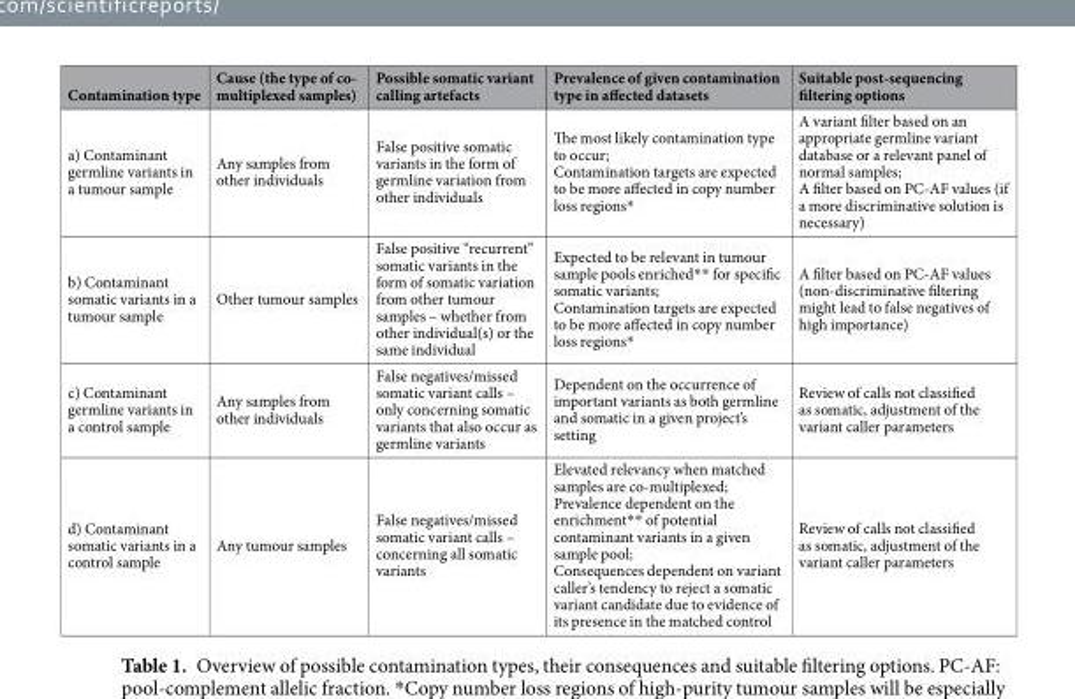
<table><thead><tr><td>Contamination type</td><td>Cause (the type of co- multiplexed samples)</td><td>Possible somatic variant calling artefacts</td><td>Prevalence of given contamination type in affected datasets</td><td>Suitable post-sequencing filtering options</td></tr></thead><tbody><tr><td>a) Contaminant germline variants in a tumour sample</td><td>Any samples from other individuals</td><td>False positive somatic variants in the form of germline variation from other individuals</td><td>The most likely contamination type to occur; Contamination targets are expected to be more affected in copy number loss regions*</td><td>A variant filter based on an appropriate germline variant database or a relevant panel of normal samples; A filter based on PC-AF values (if a more discriminative solution is necessary)</td></tr><tr><td>b) Contaminant somatic variants in a tumour sample</td><td>Other tumour samples</td><td>False positive “recurrent” somatic variants in the form of somatic variation from other tumour samples – whether from other individual(s) or the same individual</td><td>Expected to be relevant in tumour sample pools enriched** for specific somatic variants; Contamination targets are expected to be more affected in copy number loss regions*</td><td>A filter based on PC-AF values (non-discriminative filtering might lead to false negatives of high importance)</td></tr><tr><td>c) Contaminant germline variants in a control sample</td><td>Any samples from other individuals</td><td>False negatives/missed somatic variant calls – only concerning somatic variants that also occur as germline variants</td><td>Dependent on the occurrence of important variants as both germline and somatic in a given project’s setting</td><td>Review of calls not classified as somatic, adjustment of the variant caller parameters</td></tr><tr><td>d) Contaminant somatic variants in a control sample</td><td>Any tumour samples</td><td>False negatives/missed somatic variant calls – concerning all somatic variants</td><td>Elevated relevancy when matched samples are co-multiplexed; Prevalence dependent on the enrichment** of potential contaminant variants in a given sample pool; Consequences dependent on variant caller’s tendency to reject a somatic variant candidate due to evidence of its presence in the matched control</td><td>Review of calls not classified as somatic, adjustment of the variant caller parameters</td></tr></tbody></table>